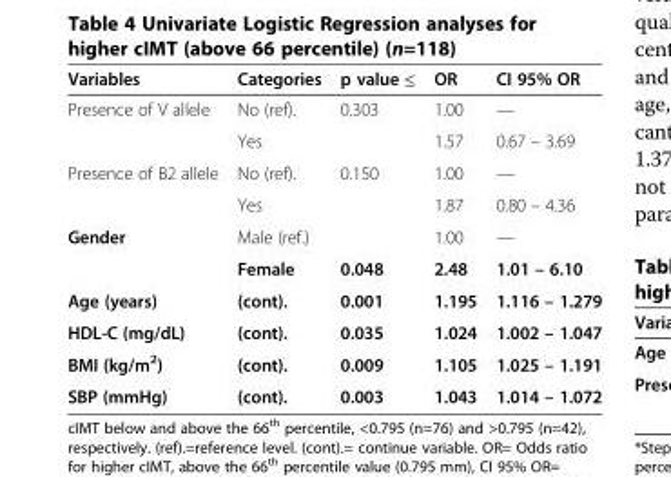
<table><thead><tr><td>Variables</td><td>Categories</td><td>p value ≤</td><td>OR</td><td>CI 95% OR</td></tr></thead><tbody><tr><td rowspan="2">Presence of V allele</td><td>No (ref).</td><td>0.303</td><td>1.00</td><td>—</td></tr><tr><td>Yes</td><td></td><td>1.57</td><td>0.67 – 3.69</td></tr><tr><td rowspan="2">Presence of B2 allele</td><td>No (ref).</td><td>0.150</td><td>1.00</td><td>—</td></tr><tr><td>Yes</td><td></td><td>1.87</td><td>0.80 – 4.36</td></tr><tr><td rowspan="2">Gender</td><td>Male (ref.)</td><td></td><td>1.00</td><td>—</td></tr><tr><td>Female</td><td>0.048</td><td>2.48</td><td>1.01 – 6.10</td></tr><tr><td>Age (years)</td><td>(cont).</td><td>0.001</td><td>1.195</td><td>1.116 – 1.279</td></tr><tr><td>HDL-C (mg/dL)</td><td>(cont).</td><td>0.035</td><td>1.024</td><td>1.002 – 1.047</td></tr><tr><td>BMI (kg/m<sup>2</sup>)</td><td>(cont).</td><td>0.009</td><td>1.105</td><td>1.025 – 1.191</td></tr><tr><td>SBP (mmHg)</td><td>(cont).</td><td>0.003</td><td>1.043</td><td>1.014 – 1.072</td></tr></tbody></table>